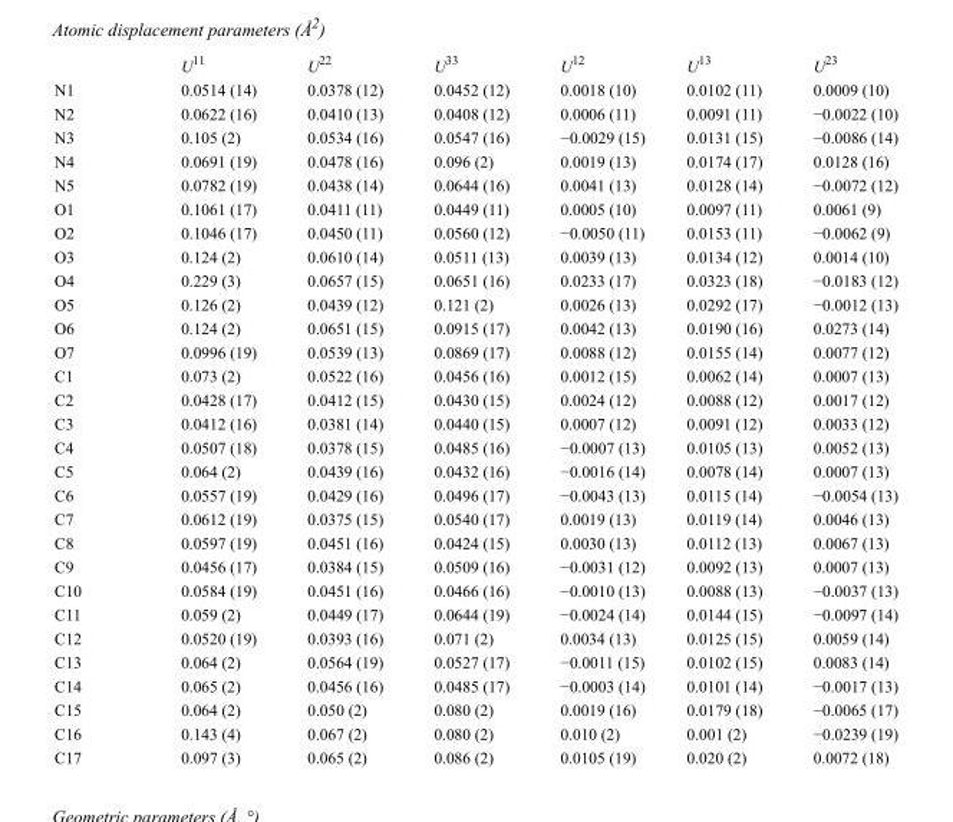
<table><thead><tr><td></td><td>U<sup>11</sup></td><td>U<sup>22</sup></td><td>U<sup>33</sup></td><td>U<sup>12</sup></td><td>U<sup>13</sup></td><td>U<sup>23</sup></td></tr></thead><tbody><tr><td>N1</td><td>0.0514 (14)</td><td>0.0378 (12)</td><td>0.0452 (12)</td><td>0.0018 (10)</td><td>0.0102 (11)</td><td>0.0009 (10)</td></tr><tr><td>N2</td><td>0.0622 (16)</td><td>0.0410 (13)</td><td>0.0408 (12)</td><td>0.0006 (11)</td><td>0.0091 (11)</td><td>−0.0022 (10)</td></tr><tr><td>N3</td><td>0.105 (2)</td><td>0.0534 (16)</td><td>0.0547 (16)</td><td>−0.0029 (15)</td><td>0.0131 (15)</td><td>−0.0086 (14)</td></tr><tr><td>N4</td><td>0.0691 (19)</td><td>0.0478 (16)</td><td>0.096 (2)</td><td>0.0019 (13)</td><td>0.0174 (17)</td><td>0.0128 (16)</td></tr><tr><td>N5</td><td>0.0782 (19)</td><td>0.0438 (14)</td><td>0.0644 (16)</td><td>0.0041 (13)</td><td>0.0128 (14)</td><td>−0.0072 (12)</td></tr><tr><td>O1</td><td>0.1061 (17)</td><td>0.0411 (11)</td><td>0.0449 (11)</td><td>0.0005 (10)</td><td>0.0097 (11)</td><td>0.0061 (9)</td></tr><tr><td>O2</td><td>0.1046 (17)</td><td>0.0450 (11)</td><td>0.0560 (12)</td><td>−0.0050 (11)</td><td>0.0153 (11)</td><td>−0.0062 (9)</td></tr><tr><td>O3</td><td>0.124 (2)</td><td>0.0610 (14)</td><td>0.0511 (13)</td><td>0.0039 (13)</td><td>0.0134 (12)</td><td>0.0014 (10)</td></tr><tr><td>O4</td><td>0.229 (3)</td><td>0.0657 (15)</td><td>0.0651 (16)</td><td>0.0233 (17)</td><td>0.0323 (18)</td><td>−0.0183 (12)</td></tr><tr><td>O5</td><td>0.126 (2)</td><td>0.0439 (12)</td><td>0.121 (2)</td><td>0.0026 (13)</td><td>0.0292 (17)</td><td>−0.0012 (13)</td></tr><tr><td>O6</td><td>0.124 (2)</td><td>0.0651 (15)</td><td>0.0915 (17)</td><td>0.0042 (13)</td><td>0.0190 (16)</td><td>0.0273 (14)</td></tr><tr><td>O7</td><td>0.0996 (19)</td><td>0.0539 (13)</td><td>0.0869 (17)</td><td>0.0088 (12)</td><td>0.0155 (14)</td><td>0.0077 (12)</td></tr><tr><td>C1</td><td>0.073 (2)</td><td>0.0522 (16)</td><td>0.0456 (16)</td><td>0.0012 (15)</td><td>0.0062 (14)</td><td>0.0007 (13)</td></tr><tr><td>C2</td><td>0.0428 (17)</td><td>0.0412 (15)</td><td>0.0430 (15)</td><td>0.0024 (12)</td><td>0.0088 (12)</td><td>0.0017 (12)</td></tr><tr><td>C3</td><td>0.0412 (16)</td><td>0.0381 (14)</td><td>0.0440 (15)</td><td>0.0007 (12)</td><td>0.0091 (12)</td><td>0.0033 (12)</td></tr><tr><td>C4</td><td>0.0507 (18)</td><td>0.0378 (15)</td><td>0.0485 (16)</td><td>−0.0007 (13)</td><td>0.0105 (13)</td><td>0.0052 (13)</td></tr><tr><td>C5</td><td>0.064 (2)</td><td>0.0439 (16)</td><td>0.0432 (16)</td><td>−0.0016 (14)</td><td>0.0078 (14)</td><td>0.0007 (13)</td></tr><tr><td>C6</td><td>0.0557 (19)</td><td>0.0429 (16)</td><td>0.0496 (17)</td><td>−0.0043 (13)</td><td>0.0115 (14)</td><td>−0.0054 (13)</td></tr><tr><td>C7</td><td>0.0612 (19)</td><td>0.0375 (15)</td><td>0.0540 (17)</td><td>0.0019 (13)</td><td>0.0119 (14)</td><td>0.0046 (13)</td></tr><tr><td>C8</td><td>0.0597 (19)</td><td>0.0451 (16)</td><td>0.0424 (15)</td><td>0.0030 (13)</td><td>0.0112 (13)</td><td>0.0067 (13)</td></tr><tr><td>C9</td><td>0.0456 (17)</td><td>0.0384 (15)</td><td>0.0509 (16)</td><td>−0.0031 (12)</td><td>0.0092 (13)</td><td>0.0007 (13)</td></tr><tr><td>C10</td><td>0.0584 (19)</td><td>0.0451 (16)</td><td>0.0466 (16)</td><td>−0.0010 (13)</td><td>0.0088 (13)</td><td>−0.0037 (13)</td></tr><tr><td>C11</td><td>0.059 (2)</td><td>0.0449 (17)</td><td>0.0644 (19)</td><td>−0.0024 (14)</td><td>0.0144 (15)</td><td>−0.0097 (14)</td></tr><tr><td>C12</td><td>0.0520 (19)</td><td>0.0393 (16)</td><td>0.071 (2)</td><td>0.0034 (13)</td><td>0.0125 (15)</td><td>0.0059 (14)</td></tr><tr><td>C13</td><td>0.064 (2)</td><td>0.0564 (19)</td><td>0.0527 (17)</td><td>−0.0011 (15)</td><td>0.0102 (15)</td><td>0.0083 (14)</td></tr><tr><td>C14</td><td>0.065 (2)</td><td>0.0456 (16)</td><td>0.0485 (17)</td><td>−0.0003 (14)</td><td>0.0101 (14)</td><td>−0.0017 (13)</td></tr><tr><td>C15</td><td>0.064 (2)</td><td>0.050 (2)</td><td>0.080 (2)</td><td>0.0019 (16)</td><td>0.0179 (18)</td><td>−0.0065 (17)</td></tr><tr><td>C16</td><td>0.143 (4)</td><td>0.067 (2)</td><td>0.080 (2)</td><td>0.010 (2)</td><td>0.001 (2)</td><td>−0.0239 (19)</td></tr><tr><td>C17</td><td>0.097 (3)</td><td>0.065 (2)</td><td>0.086 (2)</td><td>0.0105 (19)</td><td>0.020 (2)</td><td>0.0072 (18)</td></tr></tbody></table>